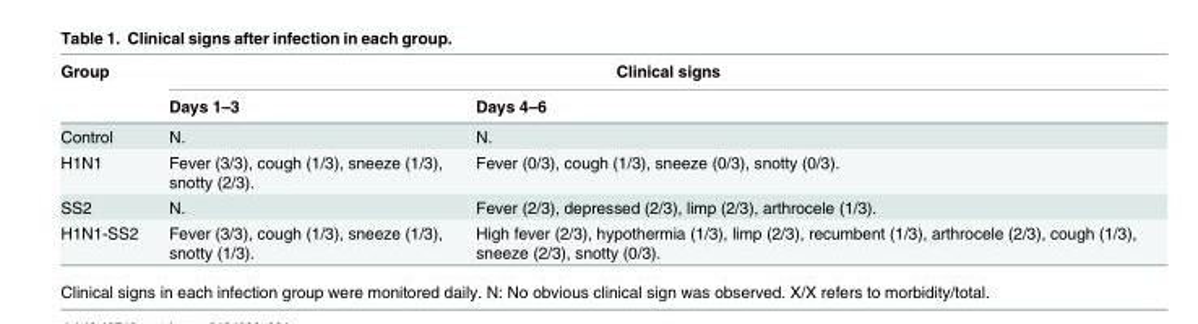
<table><thead><tr><td rowspan="2">Group</td><td colspan="2">Clinical signs</td></tr><tr><td>Days 1–3</td><td>Days 4–6</td></tr></thead><tbody><tr><td>Control</td><td>N.</td><td>N.</td></tr><tr><td>H1N1</td><td>Fever (3/3), cough (1/3), sneeze (1/3), snotty (2/3).</td><td>Fever (0/3), cough (1/3), sneeze (0/3), snotty (0/3).</td></tr><tr><td>SS2</td><td>N.</td><td>Fever (2/3), depressed (2/3), limp (2/3), arthrocele (1/3).</td></tr><tr><td>H1N1-SS2</td><td>Fever (3/3), cough (1/3), sneeze (1/3), snotty (1/3).</td><td>High fever (2/3), hypothermia (1/3), limp (2/3), recumbent (1/3), arthrocele (2/3), cough (1/3), sneeze (2/3), snotty (0/3).</td></tr></tbody></table>